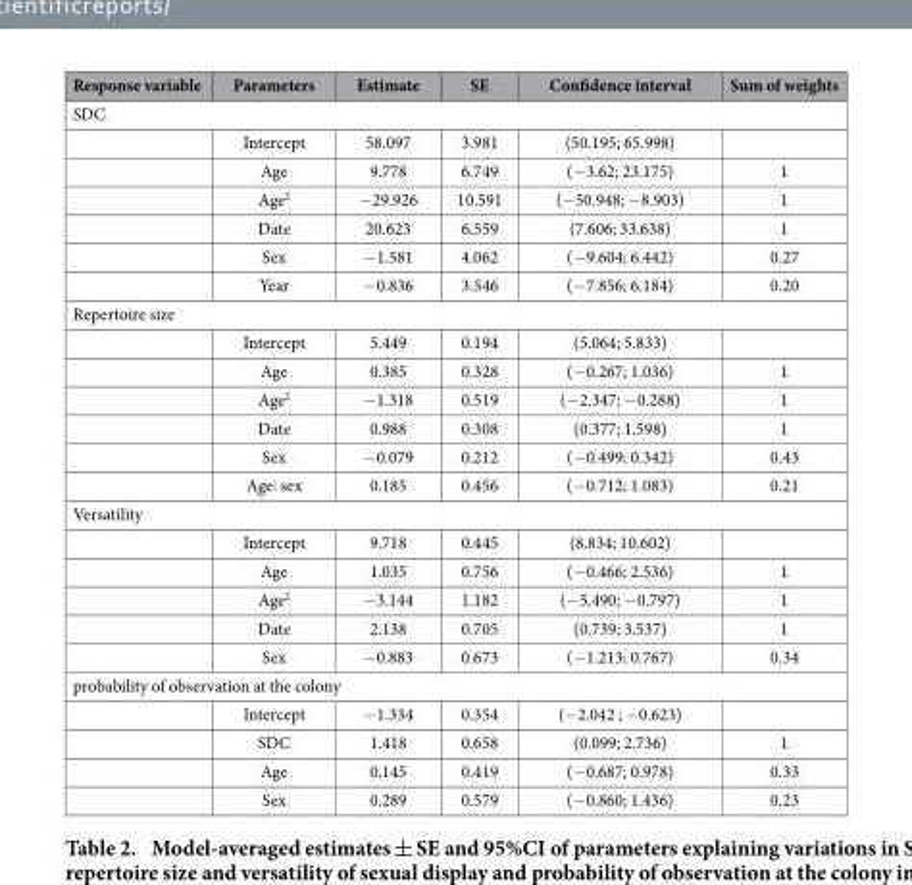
<table><thead><tr><td>Response variable</td><td>Parameters</td><td>Estimate</td><td>SE</td><td>Confidence interval</td><td>Sum of weights</td></tr></thead><tbody><tr><td colspan="6">SDC</td></tr><tr><td></td><td>Intercept</td><td>58.097</td><td>3.981</td><td>(50.195; 65.998)</td><td></td></tr><tr><td></td><td>Age</td><td>9.778</td><td>6.749</td><td>(− 3.62; 23.175)</td><td>1</td></tr><tr><td></td><td>Age<sup>2</sup></td><td>− 29.926</td><td>10.591</td><td>(− 50.948; − 8.903)</td><td>1</td></tr><tr><td></td><td>Date</td><td>20.623</td><td>6.559</td><td>(7.606; 33.638)</td><td>1</td></tr><tr><td></td><td>Sex</td><td>− 1.581</td><td>4.062</td><td>(− 9.604; 6.442)</td><td>0.27</td></tr><tr><td></td><td>Year</td><td>− 0.836</td><td>3.546</td><td>(− 7.856; 6.184)</td><td>0.20</td></tr><tr><td colspan="6">Repertoire size</td></tr><tr><td></td><td>Intercept</td><td>5.449</td><td>0.194</td><td>(5.064; 5.833)</td><td></td></tr><tr><td></td><td>Age</td><td>0.385</td><td>0.328</td><td>(− 0.267; 1.036)</td><td>1</td></tr><tr><td></td><td>Age<sup>2</sup></td><td>− 1.318</td><td>0.519</td><td>(− 2.347; − 0.288)</td><td>1</td></tr><tr><td></td><td>Date</td><td>0.988</td><td>0.308</td><td>(0.377; 1.598)</td><td>1</td></tr><tr><td></td><td>Sex</td><td>− 0.079</td><td>0.212</td><td>(− 0.499; 0.342)</td><td>0.43</td></tr><tr><td></td><td>Age: sex</td><td>0.185</td><td>0.456</td><td>(− 0.712; 1.083)</td><td>0.21</td></tr><tr><td colspan="6">Versatility</td></tr><tr><td></td><td>Intercept</td><td>9.718</td><td>0.445</td><td>(8.834; 10.602)</td><td></td></tr><tr><td></td><td>Age</td><td>1.035</td><td>0.756</td><td>(− 0.466; 2.536)</td><td>1</td></tr><tr><td></td><td>Age<sup>2</sup></td><td>− 3.144</td><td>1.182</td><td>(− 5.490; − 0.797)</td><td>1</td></tr><tr><td></td><td>Date</td><td>2.138</td><td>0.705</td><td>(0.739; 3.537)</td><td>1</td></tr><tr><td></td><td>Sex</td><td>− 0.883</td><td>0.673</td><td>(− 1.213; 0.767)</td><td>0.34</td></tr><tr><td colspan="6">probability of observation at the colony</td></tr><tr><td></td><td>Intercept</td><td>− 1.334</td><td>0.354</td><td>(− 2.042 ; − 0.623)</td><td></td></tr><tr><td></td><td>SDC</td><td>1.418</td><td>0.658</td><td>(0.099; 2.736)</td><td>1</td></tr><tr><td></td><td>Age</td><td>0.145</td><td>0.419</td><td>(− 0.687; 0.978)</td><td>0.33</td></tr><tr><td></td><td>Sex</td><td>0.289</td><td>0.579</td><td>(− 0.860; 1.436)</td><td>0.23</td></tr></tbody></table>